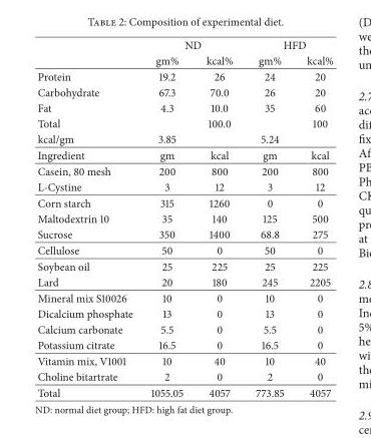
<table><thead><tr><td rowspan="2"></td><td colspan="2">ND</td><td colspan="2">HFD</td></tr><tr><td>gm%</td><td>kcal%</td><td>gm%</td><td>kcal%</td></tr></thead><tbody><tr><td>Protein</td><td>19.2</td><td>26</td><td>24</td><td>20</td></tr><tr><td>Carbohydrate</td><td>67.3</td><td>70.0</td><td>26</td><td>20</td></tr><tr><td>Fat</td><td>4.3</td><td>10.0</td><td>35</td><td>60</td></tr><tr><td>Total</td><td></td><td>100.0</td><td></td><td>100</td></tr><tr><td>kcal/gm</td><td>3.85</td><td></td><td>5.24</td><td></td></tr><tr><td>Ingredient</td><td>gm</td><td>kcal</td><td>gm</td><td>kcal</td></tr><tr><td>Casein, 80 mesh</td><td>200</td><td>800</td><td>200</td><td>800</td></tr><tr><td>L-Cystine</td><td>3</td><td>12</td><td>3</td><td>12</td></tr><tr><td>Corn starch</td><td>315</td><td>1260</td><td>0</td><td>0</td></tr><tr><td>Maltodextrin 10</td><td>35</td><td>140</td><td>125</td><td>500</td></tr><tr><td>Sucrose</td><td>350</td><td>1400</td><td>68.8</td><td>275</td></tr><tr><td>Cellulose</td><td>50</td><td>0</td><td>50</td><td>0</td></tr><tr><td>Soybean oil</td><td>25</td><td>225</td><td>25</td><td>225</td></tr><tr><td>Lard</td><td>20</td><td>180</td><td>245</td><td>2205</td></tr><tr><td>Mineral mix S10026</td><td>10</td><td>0</td><td>10</td><td>0</td></tr><tr><td>Dicalcium phosphate</td><td>13</td><td>0</td><td>13</td><td>0</td></tr><tr><td>Calcium carbonate</td><td>5.5</td><td>0</td><td>5.5</td><td>0</td></tr><tr><td>Potassium citrate</td><td>16.5</td><td>0</td><td>16.5</td><td>0</td></tr><tr><td>Vitamin mix, V1001</td><td>10</td><td>40</td><td>10</td><td>40</td></tr><tr><td>Choline bitartrate</td><td>2</td><td>0</td><td>2</td><td>0</td></tr><tr><td>Total</td><td>1055.05</td><td>4057</td><td>773.85</td><td>4057</td></tr></tbody></table>